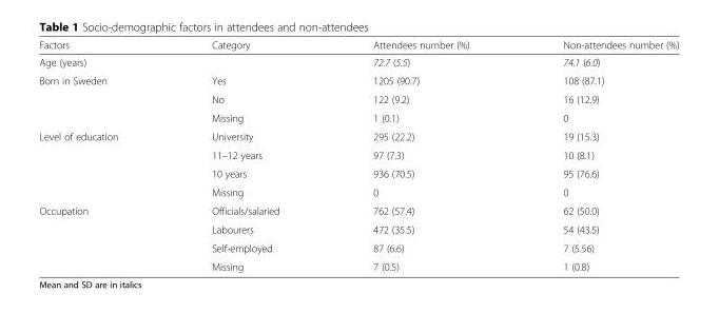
<table><thead><tr><td>Factors</td><td>Category</td><td>Attendees number (%)</td><td>Non-attendees number (%)</td></tr></thead><tbody><tr><td>Age (years)</td><td></td><td>72.7 (5.5)</td><td>74.1 (6.0)</td></tr><tr><td rowspan="3">Born in Sweden</td><td>Yes</td><td>1205 (90.7)</td><td>108 (87.1)</td></tr><tr><td>No</td><td>122 (9.2)</td><td>16 (12.9)</td></tr><tr><td>Missing</td><td>1 (0.1)</td><td>0</td></tr><tr><td rowspan="4">Level of education</td><td>University</td><td>295 (22.2)</td><td>19 (15.3)</td></tr><tr><td>11–12 years</td><td>97 (7.3)</td><td>10 (8.1)</td></tr><tr><td>10 years</td><td>936 (70.5)</td><td>95 (76.6)</td></tr><tr><td>Missing</td><td>0</td><td>0</td></tr><tr><td rowspan="4">Occupation</td><td>Officials/salaried</td><td>762 (57.4)</td><td>62 (50.0)</td></tr><tr><td>Labourers</td><td>472 (35.5)</td><td>54 (43.5)</td></tr><tr><td>Self-employed</td><td>87 (6.6)</td><td>7 (5.56)</td></tr><tr><td>Missing</td><td>7 (0.5)</td><td>1 (0.8)</td></tr></tbody></table>